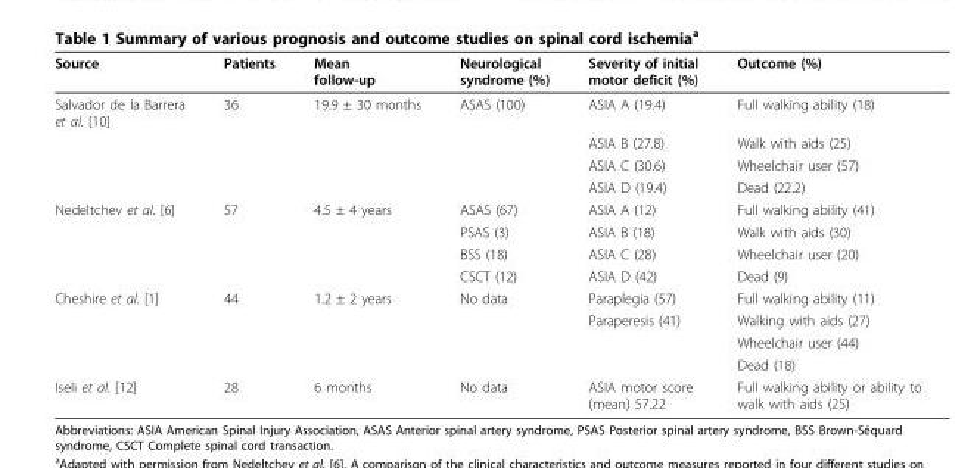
<table><thead><tr><td>Source</td><td>Patients</td><td>Mean follow-up</td><td>Neurological syndrome (%)</td><td>Severity of initial motor deficit (%)</td><td>Outcome (%)</td></tr></thead><tbody><tr><td rowspan="4">Salvador de la Barrera et al. [10]</td><td>36</td><td>19.9 ± 30 months</td><td>ASAS (100)</td><td>ASIA A (19.4)</td><td>Full walking ability (18)</td></tr><tr><td></td><td></td><td></td><td>ASIA B (27.8)</td><td>Walk with aids (25)</td></tr><tr><td></td><td></td><td></td><td>ASIA C (30.6)</td><td>Wheelchair user (57)</td></tr><tr><td></td><td></td><td></td><td>ASIA D (19.4)</td><td>Dead (22.2)</td></tr><tr><td rowspan="4">Nedeltchev et al. [6]</td><td>57</td><td>4.5 ± 4 years</td><td>ASAS (67)</td><td>ASIA A (12)</td><td>Full walking ability (41)</td></tr><tr><td></td><td></td><td>PSAS (3)</td><td>ASIA B (18)</td><td>Walk with aids (30)</td></tr><tr><td></td><td></td><td>BSS (18)</td><td>ASIA C (28)</td><td>Wheelchair user (20)</td></tr><tr><td></td><td></td><td>CSCT (12)</td><td>ASIA D (42)</td><td>Dead (9)</td></tr><tr><td rowspan="4">Cheshire et al. [1]</td><td>44</td><td>1.2 ± 2 years</td><td>No data</td><td>Paraplegia (57)</td><td>Full walking ability (11)</td></tr><tr><td></td><td></td><td></td><td>Paraperesis (41)</td><td>Walking with aids (27)</td></tr><tr><td></td><td></td><td></td><td></td><td>Wheelchair user (44)</td></tr><tr><td></td><td></td><td></td><td></td><td>Dead (18)</td></tr><tr><td>Iseli et al. [12]</td><td>28</td><td>6 months</td><td>No data</td><td>ASIA motor score (mean) 57.22</td><td>Full walking ability or ability to walk with aids (25)</td></tr></tbody></table>